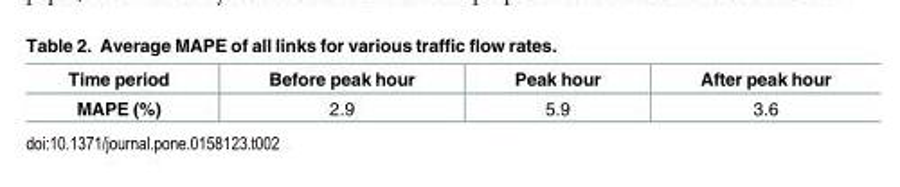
<table><thead><tr><td>Time period</td><td>Before peak hour</td><td>Peak hour</td><td>After peak hour</td></tr></thead><tbody><tr><td>MAPE (%)</td><td>2.9</td><td>5.9</td><td>3.6</td></tr></tbody></table>